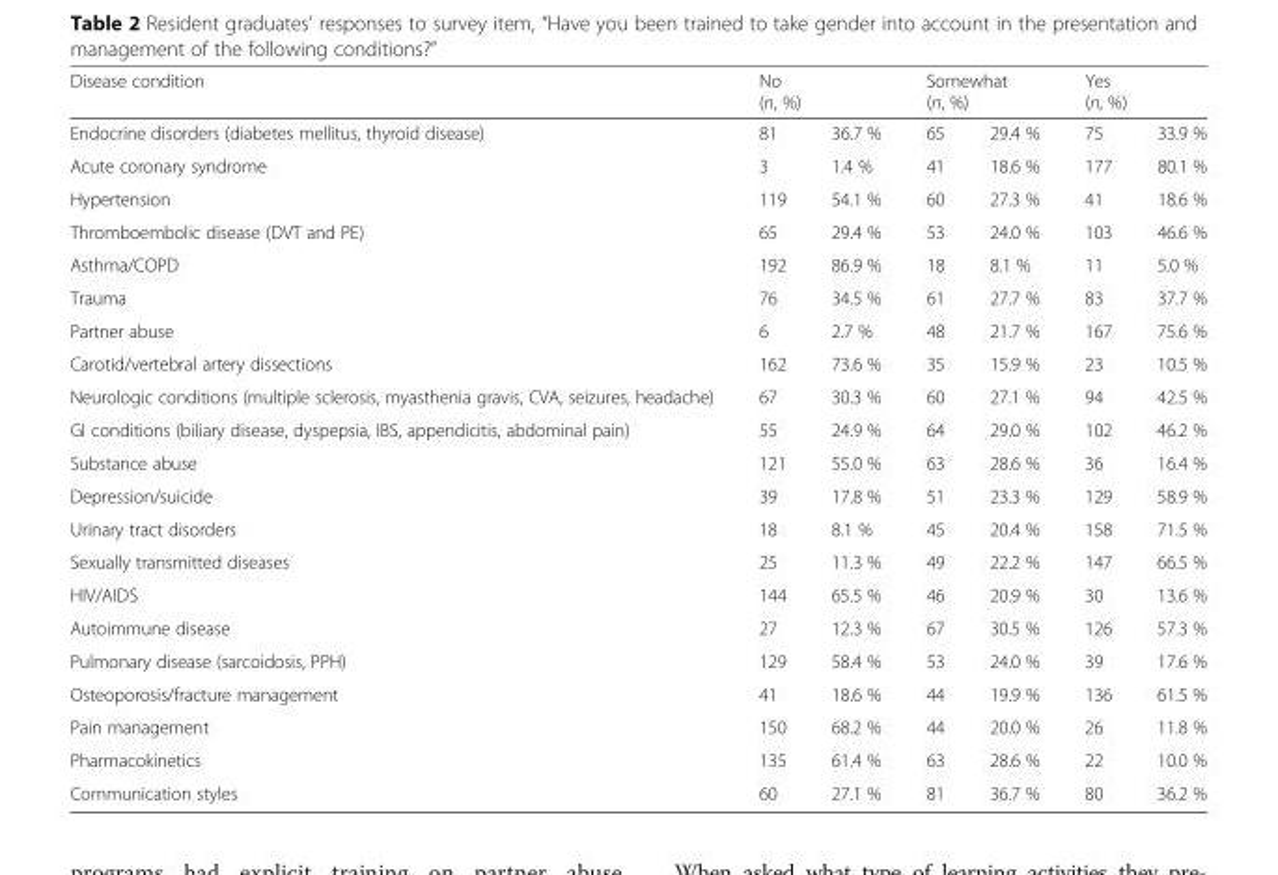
<table><thead><tr><td rowspan="2">Disease condition Endocrine disorders (diabetes mellitus, thyroid disease)</td><td colspan="2">No (n, %)</td><td colspan="2">Somewhat (n, %)</td><td colspan="2">Yes (n, %)</td></tr><tr><td>81</td><td>36.7 %</td><td>65</td><td>29.4 %</td><td>75</td><td>33.9 %</td></tr></thead><tbody><tr><td>Acute coronary syndrome</td><td>3</td><td>1.4 %</td><td>41</td><td>18.6 %</td><td>177</td><td>80.1 %</td></tr><tr><td>Hypertension</td><td>119</td><td>54.1 %</td><td>60</td><td>27.3 %</td><td>41</td><td>18.6 %</td></tr><tr><td>Thromboembolic disease (DVT and PE)</td><td>65</td><td>29.4 %</td><td>53</td><td>24.0 %</td><td>103</td><td>46.6 %</td></tr><tr><td>Asthma/COPD</td><td>192</td><td>86.9 %</td><td>18</td><td>8.1 %</td><td>11</td><td>5.0 %</td></tr><tr><td>Trauma</td><td>76</td><td>34.5 %</td><td>61</td><td>27.7 %</td><td>83</td><td>37.7 %</td></tr><tr><td>Partner abuse</td><td>6</td><td>2.7 %</td><td>48</td><td>21.7 %</td><td>167</td><td>75.6 %</td></tr><tr><td>Carotid/vertebral artery dissections</td><td>162</td><td>73.6 %</td><td>35</td><td>15.9 %</td><td>23</td><td>10.5 %</td></tr><tr><td>Neurologic conditions (multiple sclerosis, myasthenia gravis, CVA, seizures, headache)</td><td>67</td><td>30.3 %</td><td>60</td><td>27.1 %</td><td>94</td><td>42.5 %</td></tr><tr><td>GI conditions (biliary disease, dyspepsia, IBS, appendicitis, abdominal pain)</td><td>55</td><td>24.9 %</td><td>64</td><td>29.0 %</td><td>102</td><td>46.2 %</td></tr><tr><td>Substance abuse</td><td>121</td><td>55.0 %</td><td>63</td><td>28.6 %</td><td>36</td><td>16.4 %</td></tr><tr><td>Depression/suicide</td><td>39</td><td>17.8 %</td><td>51</td><td>23.3 %</td><td>129</td><td>58.9 %</td></tr><tr><td>Urinary tract disorders</td><td>18</td><td>8.1 %</td><td>45</td><td>20.4 %</td><td>158</td><td>71.5 %</td></tr><tr><td>Sexually transmitted diseases</td><td>25</td><td>11.3 %</td><td>49</td><td>22.2 %</td><td>147</td><td>66.5 %</td></tr><tr><td>HIV/AIDS</td><td>144</td><td>65.5 %</td><td>46</td><td>20.9 %</td><td>30</td><td>13.6 %</td></tr><tr><td>Autoimmune disease</td><td>27</td><td>12.3 %</td><td>67</td><td>30.5 %</td><td>126</td><td>57.3 %</td></tr><tr><td>Pulmonary disease (sarcoidosis, PPH)</td><td>129</td><td>58.4 %</td><td>53</td><td>24.0 %</td><td>39</td><td>17.6 %</td></tr><tr><td>Osteoporosis/fracture management</td><td>41</td><td>18.6 %</td><td>44</td><td>19.9 %</td><td>136</td><td>61.5 %</td></tr><tr><td>Pain management</td><td>150</td><td>68.2 %</td><td>44</td><td>20.0 %</td><td>26</td><td>11.8 %</td></tr><tr><td>Pharmacokinetics</td><td>135</td><td>61.4 %</td><td>63</td><td>28.6 %</td><td>22</td><td>10.0 %</td></tr><tr><td>Communication styles</td><td>60</td><td>27.1 %</td><td>81</td><td>36.7 %</td><td>80</td><td>36.2 %</td></tr></tbody></table>